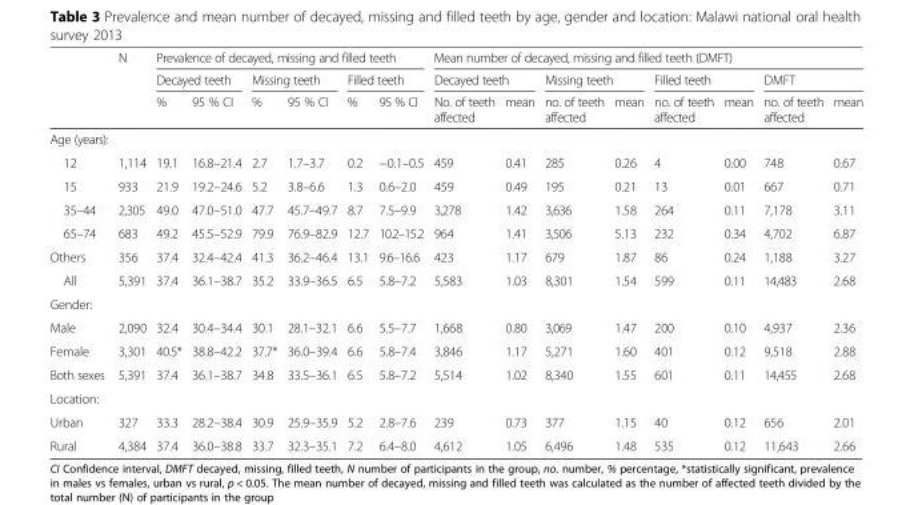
<table><thead><tr><td rowspan="3"></td><td rowspan="3">N</td><td colspan="6">Prevalence of decayed, missing and filled teeth</td><td colspan="8">Mean number of decayed, missing and filled teeth (DMFT)</td></tr><tr><td colspan="2">Decayed teeth</td><td colspan="2">Missing teeth</td><td colspan="2">Filled teeth</td><td colspan="2">Decayed teeth</td><td colspan="2">Missing teeth</td><td colspan="2">Filled teeth</td><td colspan="2">DMFT</td></tr><tr><td>%</td><td>95 % CI</td><td>%</td><td>95 % CI</td><td>%</td><td>95 % CI</td><td>No. of teeth affected</td><td>mean</td><td>no. of teeth affected</td><td>mean</td><td>no. of teeth affected</td><td>mean</td><td>no. of teeth affected</td><td>mean</td></tr></thead><tbody><tr><td colspan="16">Age (years):</td></tr><tr><td>12</td><td>1,114</td><td>19.1</td><td>16.8–21.4</td><td>2.7</td><td>1.7–3.7</td><td>0.2</td><td>−0.1–0.5</td><td>459</td><td>0.41</td><td>285</td><td>0.26</td><td>4</td><td>0.00</td><td>748</td><td>0.67</td></tr><tr><td>15</td><td>933</td><td>21.9</td><td>19.2–24.6</td><td>5.2</td><td>3.8–6.6</td><td>1.3</td><td>0.6–2.0</td><td>459</td><td>0.49</td><td>195</td><td>0.21</td><td>13</td><td>0.01</td><td>667</td><td>0.71</td></tr><tr><td>35–44</td><td>2,305</td><td>49.0</td><td>47.0–51.0</td><td>47.7</td><td>45.7–49.7</td><td>8.7</td><td>7.5–9.9</td><td>3,278</td><td>1.42</td><td>3,636</td><td>1.58</td><td>264</td><td>0.11</td><td>7,178</td><td>3.11</td></tr><tr><td>65–74</td><td>683</td><td>49.2</td><td>45.5–52.9</td><td>79.9</td><td>76.9–82.9</td><td>12.7</td><td>10.2–15.2</td><td>964</td><td>1.41</td><td>3,506</td><td>5.13</td><td>232</td><td>0.34</td><td>4,702</td><td>6.87</td></tr><tr><td>Others</td><td>356</td><td>37.4</td><td>32.4–42.4</td><td>41.3</td><td>36.2–46.4</td><td>13.1</td><td>9.6–16.6</td><td>423</td><td>1.17</td><td>679</td><td>1.87</td><td>86</td><td>0.24</td><td>1,188</td><td>3.27</td></tr><tr><td>All</td><td>5,391</td><td>37.4</td><td>36.1–38.7</td><td>35.2</td><td>33.9–36.5</td><td>6.5</td><td>5.8–7.2</td><td>5,583</td><td>1.03</td><td>8,301</td><td>1.54</td><td>599</td><td>0.11</td><td>14,483</td><td>2.68</td></tr><tr><td colspan="16">Gender:</td></tr><tr><td>Male</td><td>2,090</td><td>32.4</td><td>30.4–34.4</td><td>30.1</td><td>28.1–32.1</td><td>6.6</td><td>5.5–7.7</td><td>1,668</td><td>0.80</td><td>3,069</td><td>1.47</td><td>200</td><td>0.10</td><td>4,937</td><td>2.36</td></tr><tr><td>Female</td><td>3,301</td><td>40.5*</td><td>38.8–42.2</td><td>37.7*</td><td>36.0–39.4</td><td>6.6</td><td>5.8–7.4</td><td>3,846</td><td>1.17</td><td>5,271</td><td>1.60</td><td>401</td><td>0.12</td><td>9,518</td><td>2.88</td></tr><tr><td>Both sexes</td><td>5,391</td><td>37.4</td><td>36.1–38.7</td><td>34.8</td><td>33.5–36.1</td><td>6.5</td><td>5.8–7.2</td><td>5,514</td><td>1.02</td><td>8,340</td><td>1.55</td><td>601</td><td>0.11</td><td>14,455</td><td>2.68</td></tr><tr><td colspan="16">Location:</td></tr><tr><td>Urban</td><td>327</td><td>33.3</td><td>28.2–38.4</td><td>30.9</td><td>25.9–35.9</td><td>5.2</td><td>2.8–7.6</td><td>239</td><td>0.73</td><td>377</td><td>1.15</td><td>40</td><td>0.12</td><td>656</td><td>2.01</td></tr><tr><td>Rural</td><td>4,384</td><td>37.4</td><td>36.0–38.8</td><td>33.7</td><td>32.3–35.1</td><td>7.2</td><td>6.4–8.0</td><td>4,612</td><td>1.05</td><td>6,496</td><td>1.48</td><td>535</td><td>0.12</td><td>11,643</td><td>2.66</td></tr></tbody></table>